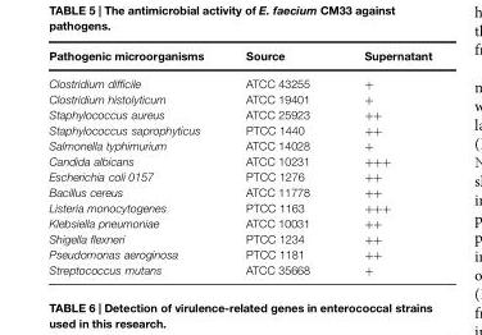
<table><thead><tr><td>Pathogenic microorganisms</td><td>Source</td><td>Supernatant</td></tr></thead><tbody><tr><td>Clostridium difficile Clostridium histolyticum Staphylococcus aureus Staphylococcus saprophyticus Salmonella typhimurium Candida albicans Escherichia coli 0157 Bacillus cereus Listeria monocytogenes Klebsiella pneumoniae Shigella flexneri Pseudomonas aeroginosa Streptococcus mutans</td><td>ATCC 43255 ATCC 19401 ATCC 25923 PTCC 1440 ATCC 14028 ATCC 10231 PTCC 1276 ATCC 11778 PTCC 1163 ATCC 10031 PTCC 1234 PTCC 1181 ATCC 35668</td><td>+ + ++ ++ + +++ ++ ++ +++ ++ ++ ++ +</td></tr></tbody></table>